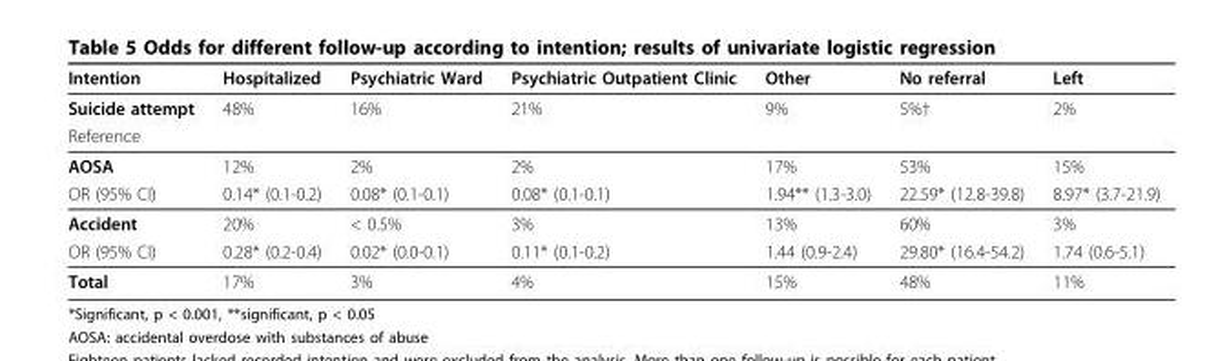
<table><thead><tr><td>Intention</td><td>Hospitalized</td><td>Psychiatric Ward</td><td>Psychiatric Outpatient Clinic</td><td>Other</td><td>No referral</td><td>Left</td></tr></thead><tbody><tr><td>Suicide attempt</td><td>48%</td><td>16%</td><td>21%</td><td>9%</td><td>5%†</td><td>2%</td></tr><tr><td colspan="7">Reference</td></tr><tr><td>AOSA</td><td>12%</td><td>2%</td><td>2%</td><td>17%</td><td>53%</td><td>15%</td></tr><tr><td>OR (95% CI)</td><td>0.14* (0.1-0.2)</td><td>0.08* (0.1-0.1)</td><td>0.08* (0.1-0.1)</td><td>1.94** (1.3-3.0)</td><td>22.59* (12.8-39.8)</td><td>8.97* (3.7-21.9)</td></tr><tr><td>Accident</td><td>20%</td><td>&lt; 0.5%</td><td>3%</td><td>13%</td><td>60%</td><td>3%</td></tr><tr><td>OR (95% CI)</td><td>0.28* (0.2-0.4)</td><td>0.02* (0.0-0.1)</td><td>0.11* (0.1-0.2)</td><td>1.44 (0.9-2.4)</td><td>29.80* (16.4-54.2)</td><td>1.74 (0.6-5.1)</td></tr><tr><td>Total</td><td>17%</td><td>3%</td><td>4%</td><td>15%</td><td>48%</td><td>11%</td></tr></tbody></table>